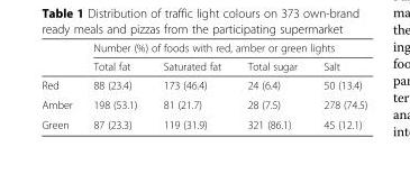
<table><thead><tr><td rowspan="2"></td><td colspan="4">Number (%) of foods with red, amber or green lights</td></tr><tr><td>Total fat</td><td>Saturated fat</td><td>Total sugar</td><td>Salt</td></tr></thead><tbody><tr><td>Red</td><td>88 (23.4)</td><td>173 (46.4)</td><td>24 (6.4)</td><td>50 (13.4)</td></tr><tr><td>Amber</td><td>198 (53.1)</td><td>81 (21.7)</td><td>28 (7.5)</td><td>278 (74.5)</td></tr><tr><td>Green</td><td>87 (23.3)</td><td>119 (31.9)</td><td>321 (86.1)</td><td>45 (12.1)</td></tr></tbody></table>